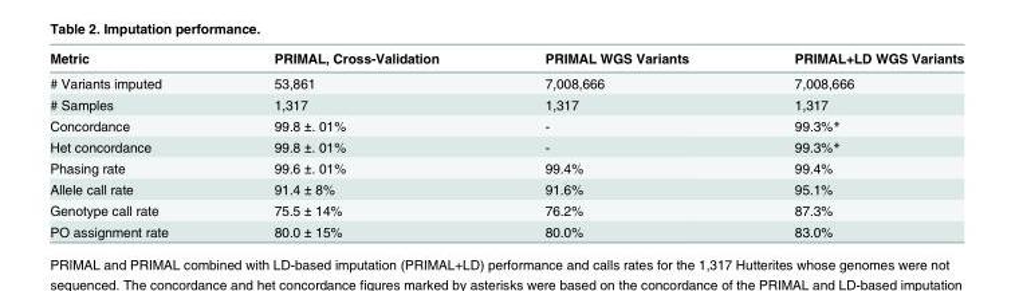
<table><thead><tr><td>Metric</td><td>PRIMAL, Cross-Validation</td><td>PRIMAL WGS Variants</td><td>PRIMAL+LD WGS Variants</td></tr></thead><tbody><tr><td># Variants imputed</td><td>53,861</td><td>7,008,666</td><td>7,008,666</td></tr><tr><td># Samples</td><td>1,317</td><td>1,317</td><td>1,317</td></tr><tr><td>Concordance</td><td>99.8 ±. 01%</td><td>-</td><td>99.3%*</td></tr><tr><td>Het concordance</td><td>99.8 ±. 01%</td><td>-</td><td>99.3%*</td></tr><tr><td>Phasing rate</td><td>99.6 ±. 01%</td><td>99.4%</td><td>99.4%</td></tr><tr><td>Allele call rate</td><td>91.4 ± 8%</td><td>91.6%</td><td>95.1%</td></tr><tr><td>Genotype call rate</td><td>75.5 ± 14%</td><td>76.2%</td><td>87.3%</td></tr><tr><td>PO assignment rate</td><td>80.0 ± 15%</td><td>80.0%</td><td>83.0%</td></tr></tbody></table>